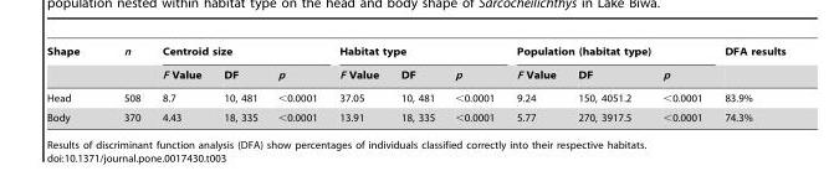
<table><thead><tr><td rowspan="2">Shape</td><td rowspan="2">n</td><td colspan="3">Centroid size</td><td colspan="3">Habitat type</td><td colspan="3">Population (habitat type)</td><td rowspan="2">DFA results</td></tr><tr><td>F Value</td><td>DF</td><td>p</td><td>F Value</td><td>DF</td><td>p</td><td>F Value</td><td>DF</td><td>p</td></tr></thead><tbody><tr><td>Head</td><td>508</td><td>8.7</td><td>10, 481</td><td>&lt;0.0001</td><td>37.05</td><td>10, 481</td><td>&lt;0.0001</td><td>9.24</td><td>150, 4051.2</td><td>&lt;0.0001</td><td>83.9%</td></tr><tr><td>Body</td><td>370</td><td>4.43</td><td>18, 335</td><td>&lt;0.0001</td><td>13.91</td><td>18, 335</td><td>&lt;0.0001</td><td>5.77</td><td>270, 3917.5</td><td>&lt;0.0001</td><td>74.3%</td></tr></tbody></table>